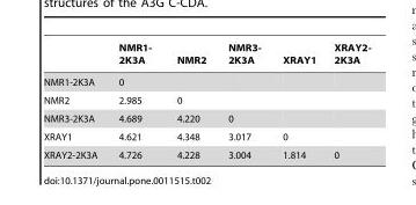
<table><thead><tr><td></td><td>NMR1- 2K3A</td><td>NMR2</td><td>NMR3- 2K3A</td><td>XRAY1</td><td>XRAY2- 2K3A</td></tr></thead><tbody><tr><td>NMR1-2K3A</td><td>0</td><td></td><td></td><td></td><td></td></tr><tr><td>NMR2</td><td>2.985</td><td>0</td><td></td><td></td><td></td></tr><tr><td>NMR3-2K3A</td><td>4.689</td><td>4.220</td><td>0</td><td></td><td></td></tr><tr><td>XRAY1</td><td>4.621</td><td>4.348</td><td>3.017</td><td>0</td><td></td></tr><tr><td>XRAY2-2K3A</td><td>4.726</td><td>4.228</td><td>3.004</td><td>1.814</td><td>0</td></tr></tbody></table>